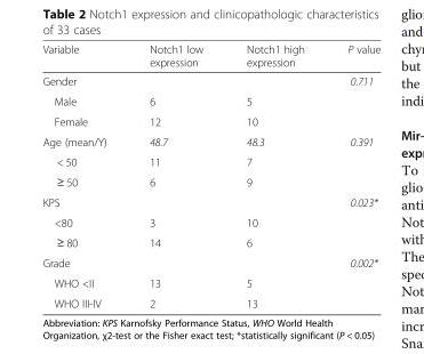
<table><thead><tr><td>Variable</td><td>Notch1 low expression</td><td>Notch1 high expression</td><td>P value</td></tr></thead><tbody><tr><td colspan="3">Gender</td><td>0.711</td></tr><tr><td>Male</td><td>6</td><td>5</td><td></td></tr><tr><td>Female</td><td>12</td><td>10</td><td></td></tr><tr><td>Age (mean/Y)</td><td>48.7</td><td>48.3</td><td>0.391</td></tr><tr><td>&lt; 50</td><td>11</td><td>7</td><td></td></tr><tr><td>≥ 50</td><td>6</td><td>9</td><td></td></tr><tr><td colspan="3">KPS</td><td>0.023*</td></tr><tr><td>&lt;80</td><td>3</td><td>10</td><td></td></tr><tr><td>≥ 80</td><td>14</td><td>6</td><td></td></tr><tr><td colspan="3">Grade</td><td>0.002*</td></tr><tr><td>WHO &lt;II</td><td>13</td><td>5</td><td></td></tr><tr><td>WHO III-IV</td><td>2</td><td>13</td><td></td></tr></tbody></table>